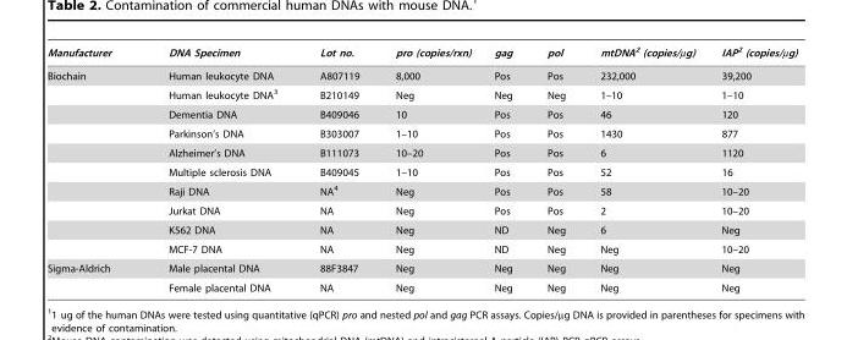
<table><thead><tr><td>Manufacturer</td><td>DNA Specimen</td><td>Lot no.</td><td>pro (copies/rxn)</td><td>gag</td><td>pol</td><td>mtDNA2 (copies/µg)</td><td>IAP2 (copies/µg)</td></tr></thead><tbody><tr><td rowspan="10">Biochain</td><td>Human leukocyte DNA</td><td>A807119</td><td>8,000</td><td>Pos</td><td>Pos</td><td>232,000</td><td>39,200</td></tr><tr><td>Human leukocyte DNA<sup>3</sup></td><td>B210149</td><td>Neg</td><td>Neg</td><td>Neg</td><td>1–10</td><td>1–10</td></tr><tr><td>Dementia DNA</td><td>B409046</td><td>10</td><td>Pos</td><td>Pos</td><td>46</td><td>120</td></tr><tr><td>Parkinson’s DNA</td><td>B303007</td><td>1–10</td><td>Pos</td><td>Pos</td><td>1430</td><td>877</td></tr><tr><td>Alzheimer’s DNA</td><td>B111073</td><td>10–20</td><td>Pos</td><td>Pos</td><td>6</td><td>1120</td></tr><tr><td>Multiple sclerosis DNA</td><td>B409045</td><td>1–10</td><td>Pos</td><td>Pos</td><td>52</td><td>16</td></tr><tr><td>Raji DNA</td><td>NA<sup>4</sup></td><td>Neg</td><td>Pos</td><td>Pos</td><td>58</td><td>10–20</td></tr><tr><td>Jurkat DNA</td><td>NA</td><td>Neg</td><td>Pos</td><td>Pos</td><td>2</td><td>10–20</td></tr><tr><td>K562 DNA</td><td>NA</td><td>Neg</td><td>ND</td><td>Neg</td><td>6</td><td>Neg</td></tr><tr><td>MCF-7 DNA</td><td>NA</td><td>Neg</td><td>ND</td><td>Neg</td><td>Neg</td><td>10–20</td></tr><tr><td rowspan="2">Sigma-Aldrich</td><td>Male placental DNA</td><td>88F3847</td><td>Neg</td><td>Neg</td><td>Neg</td><td>Neg</td><td>Neg</td></tr><tr><td>Female placental DNA</td><td>NA</td><td>Neg</td><td>Neg</td><td>Neg</td><td>Neg</td><td>Neg</td></tr></tbody></table>